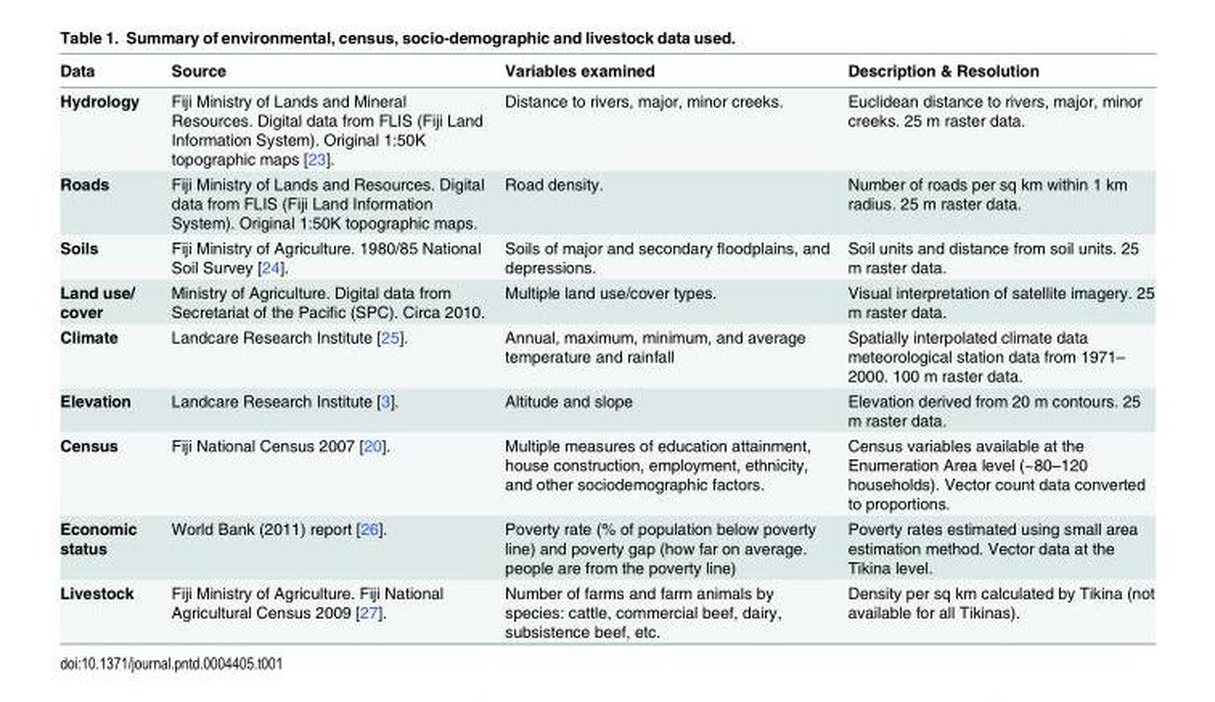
<table><thead><tr><td>Data</td><td>Source</td><td>Variables examined</td><td>Description &amp; Resolution</td></tr></thead><tbody><tr><td>Hydrology</td><td>Fiji Ministry of Lands and Mineral Resources. Digital data from FLIS (Fiji Land Information System). Original 1:50K topographic maps [23].</td><td>Distance to rivers, major, minor creeks.</td><td>Euclidean distance to rivers, major, minor creeks. 25 m raster data.</td></tr><tr><td>Roads</td><td>Fiji Ministry of Lands and Resources. Digital data from FLIS (Fiji Land Information System). Original 1:50K topographic maps.</td><td>Road density.</td><td>Number of roads per sq km within 1 km radius. 25 m raster data.</td></tr><tr><td>Soils</td><td>Fiji Ministry of Agriculture. 1980/85 National Soil Survey [24].</td><td>Soils of major and secondary floodplains, and depressions.</td><td>Soil units and distance from soil units. 25 m raster data.</td></tr><tr><td>Land use/ cover</td><td>Ministry of Agriculture. Digital data from Secretariat of the Pacific (SPC). Circa 2010.</td><td>Multiple land use/cover types.</td><td>Visual interpretation of satellite imagery. 25 m raster data.</td></tr><tr><td>Climate</td><td>Landcare Research Institute [25].</td><td>Annual, maximum, minimum, and average temperature and rainfall</td><td>Spatially interpolated climate data meteorological station data from 1971– 2000. 100 m raster data.</td></tr><tr><td>Elevation</td><td>Landcare Research Institute [3].</td><td>Altitude and slope</td><td>Elevation derived from 20 m contours. 25 m raster data.</td></tr><tr><td>Census</td><td>Fiji National Census 2007 [20].</td><td>Multiple measures of education attainment, house construction, employment, ethnicity, and other sociodemographic factors.</td><td>Census variables available at the Enumeration Area level (~80–120 households). Vector count data converted to proportions.</td></tr><tr><td>Economic status</td><td>World Bank (2011) report [26].</td><td>Poverty rate (% of population below poverty line) and poverty gap (how far on average. people are from the poverty line)</td><td>Poverty rates estimated using small area estimation method. Vector data at the Tikina level.</td></tr><tr><td>Livestock</td><td>Fiji Ministry of Agriculture. Fiji National Agricultural Census 2009 [27].</td><td>Number of farms and farm animals by species: cattle, commercial beef, dairy, subsistence beef, etc.</td><td>Density per sq km calculated by Tikina (not available for all Tikinas).</td></tr></tbody></table>